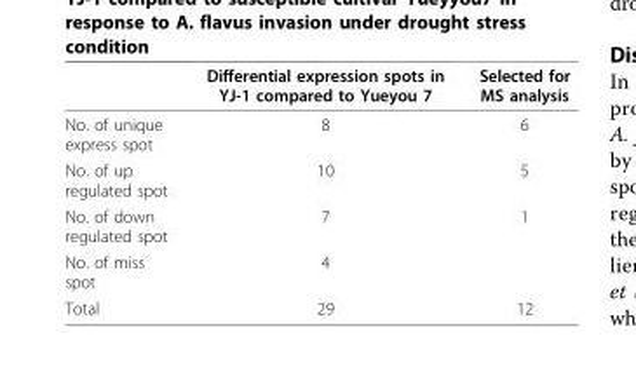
<table><thead><tr><td></td><td>Differential expression spots in YJ-1 compared to Yueyou 7</td><td>Selected for MS analysis</td></tr></thead><tbody><tr><td>No. of unique express spot</td><td>8</td><td>6</td></tr><tr><td>No. of up regulated spot</td><td>10</td><td>5</td></tr><tr><td>No. of down regulated spot</td><td>7</td><td>1</td></tr><tr><td>No. of miss spot</td><td>4</td><td></td></tr><tr><td>Total</td><td>29</td><td>12</td></tr></tbody></table>